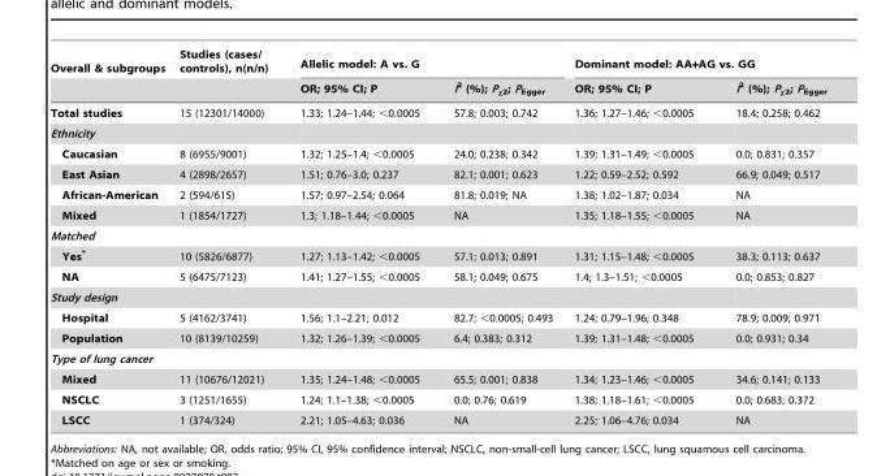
<table><thead><tr><td rowspan="2">Overall &amp; subgroups</td><td rowspan="2">Studies (cases/ controls), n(n/n)</td><td colspan="2">Allelic model: A vs. G</td><td colspan="2">Dominant model: AA+AG vs. GG</td></tr><tr><td>OR; 95% CI; P</td><td>I<sup>2</sup> (%); P<sub>χ2</sub>; P<sub>Egger</sub></td><td>OR; 95% CI; P</td><td>I<sup>2</sup> (%); P<sub>χ2</sub>; P<sub>Egger</sub></td></tr></thead><tbody><tr><td>Total studies</td><td>15 (12301/14000)</td><td>1.33; 1.24–1.44; &lt;0.0005</td><td>57.8; 0.003; 0.742</td><td>1.36; 1.27–1.46; &lt;0.0005</td><td>18.4; 0.258; 0.462</td></tr><tr><td colspan="6">Ethnicity</td></tr><tr><td>Caucasian</td><td>8 (6955/9001)</td><td>1.32; 1.25–1.4; &lt;0.0005</td><td>24.0; 0.238; 0.342</td><td>1.39; 1.31–1.49; &lt;0.0005</td><td>0.0; 0.831; 0.357</td></tr><tr><td>East Asian</td><td>4 (2898/2657)</td><td>1.51; 0.76–3.0; 0.237</td><td>82.1; 0.001; 0.623</td><td>1.22; 0.59–2.52; 0.592</td><td>66.9; 0.049; 0.517</td></tr><tr><td>African-American</td><td>2 (594/615)</td><td>1.57; 0.97–2.54; 0.064</td><td>81.8; 0.019; NA</td><td>1.38; 1.02–1.87; 0.034</td><td>NA</td></tr><tr><td>Mixed</td><td>1 (1854/1727)</td><td>1.3; 1.18–1.44; &lt;0.0005</td><td>NA</td><td>1.35; 1.18–1.55; &lt;0.0005</td><td>NA</td></tr><tr><td colspan="6">Matched</td></tr><tr><td>Yes*</td><td>10 (5826/6877)</td><td>1.27; 1.13–1.42; &lt;0.0005</td><td>57.1; 0.013; 0.891</td><td>1.31; 1.15–1.48; &lt;0.0005</td><td>38.3; 0.113; 0.637</td></tr><tr><td>NA</td><td>5 (6475/7123)</td><td>1.41; 1.27–1.55; &lt;0.0005</td><td>58.1; 0.049; 0.675</td><td>1.4; 1.3–1.51; &lt;0.0005</td><td>0.0; 0.853; 0.827</td></tr><tr><td colspan="6">Study design</td></tr><tr><td>Hospital</td><td>5 (4162/3741)</td><td>1.56; 1.1–2.21; 0.012</td><td>82.7; &lt;0.0005; 0.493</td><td>1.24; 0.79–1.96; 0.348</td><td>78.9; 0.009; 0.971</td></tr><tr><td>Population</td><td>10 (8139/10259)</td><td>1.32; 1.26–1.39; &lt;0.0005</td><td>6.4; 0.383; 0.312</td><td>1.39; 1.31–1.48; &lt;0.0005</td><td>0.0; 0.931; 0.34</td></tr><tr><td colspan="6">Type of lung cancer</td></tr><tr><td>Mixed</td><td>11 (10676/12021)</td><td>1.35; 1.24–1.48; &lt;0.0005</td><td>65.5; 0.001; 0.838</td><td>1.34; 1.23–1.46; &lt;0.0005</td><td>34.6; 0.141; 0.133</td></tr><tr><td>NSCLC</td><td>3 (1251/1655)</td><td>1.24; 1.1–1.38; &lt;0.0005</td><td>0.0; 0.76; 0.619</td><td>1.38; 1.18–1.61; &lt;0.0005</td><td>0.0; 0.683; 0.372</td></tr><tr><td>LSCC</td><td>1 (374/324)</td><td>2.21; 1.05–4.63; 0.036</td><td>NA</td><td>2.25; 1.06–4.76; 0.034</td><td>NA</td></tr></tbody></table>